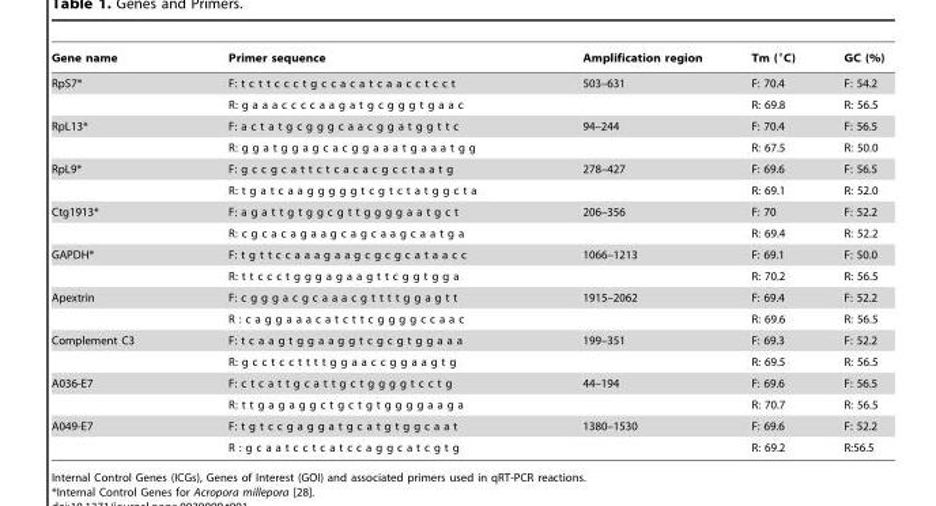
<table><thead><tr><td>Gene name</td><td>Primer sequence</td><td>Amplification region</td><td>Tm (°C)</td><td>GC (%)</td></tr></thead><tbody><tr><td rowspan="2">RpS7*</td><td>F: t c t t c c c t g c c a c a t c a a c c t c c t</td><td>503–631</td><td>F: 70.4</td><td>F: 54.2</td></tr><tr><td>R: g a a a c c c c a a g a t g c g g g t g a a c</td><td></td><td>R: 69.8</td><td>R: 56.5</td></tr><tr><td rowspan="2">RpL13*</td><td>F: a c t a t g c g g g c a a c g g a t g g t t c</td><td>94–244</td><td>F: 70.4</td><td>F: 56.5</td></tr><tr><td>R: g g a t g g a g c a c g g a a a t g a a a t g g</td><td></td><td>R: 67.5</td><td>R: 50.0</td></tr><tr><td rowspan="2">RpL9*</td><td>F: g c c g c a t t c t c a c a c g c c t a a t g</td><td>278–427</td><td>F: 69.6</td><td>F: 56.5</td></tr><tr><td>R: t g a t c a a g g g g g t c g t c t a t g g c t a</td><td></td><td>R: 69.1</td><td>R: 52.0</td></tr><tr><td rowspan="2">Ctg1913*</td><td>F: a g a t t g t g g c g t t g g g g a a t g c t</td><td>206–356</td><td>F: 70</td><td>F: 52.2</td></tr><tr><td>R: c g c a c a g a a g c a g c a a g c a a t g a</td><td></td><td>R: 69.4</td><td>R: 52.2</td></tr><tr><td rowspan="2">GAPDH*</td><td>F: t g t t c c a a a g a a g c g c g c a t a a c c</td><td>1066–1213</td><td>F: 69.1</td><td>F: 50.0</td></tr><tr><td>R: t t c c c t g g g a g a a g t t c g g t g g a</td><td></td><td>R: 70.2</td><td>R: 56.5</td></tr><tr><td rowspan="2">Apextrin</td><td>F: c g g g a c g c a a a c g t t t t g g a g t t</td><td>1915–2062</td><td>F: 69.4</td><td>F: 52.2</td></tr><tr><td>R : c a g g a a a c a t c t t c g g g g c c a a c</td><td></td><td>R: 69.6</td><td>R: 56.5</td></tr><tr><td rowspan="2">Complement C3</td><td>F: t c a a g t g g a a g g t c g c g t g g a a a</td><td>199–351</td><td>F: 69.3</td><td>F: 52.2</td></tr><tr><td>R: g c c t c c t t t t g g a a c c g g a a g t g</td><td></td><td>R: 69.5</td><td>R: 56.5</td></tr><tr><td rowspan="2">A036-E7</td><td>F: c t c a t t g c a t t g c t g g g g t c c t g</td><td>44–194</td><td>F: 69.6</td><td>F: 56.5</td></tr><tr><td>R: t t g a g a g g c t g c t g t g g g g a a g a</td><td></td><td>R: 70.7</td><td>R: 56.5</td></tr><tr><td rowspan="2">A049-E7</td><td>F: t g t c c g a g g a t g c a t g t g g c a a t</td><td>1380–1530</td><td>F: 69.6</td><td>F: 52.2</td></tr><tr><td>R : g c a a t c c t c a t c c a g g c a t c g t g</td><td></td><td>R: 69.2</td><td>R:56.5</td></tr></tbody></table>